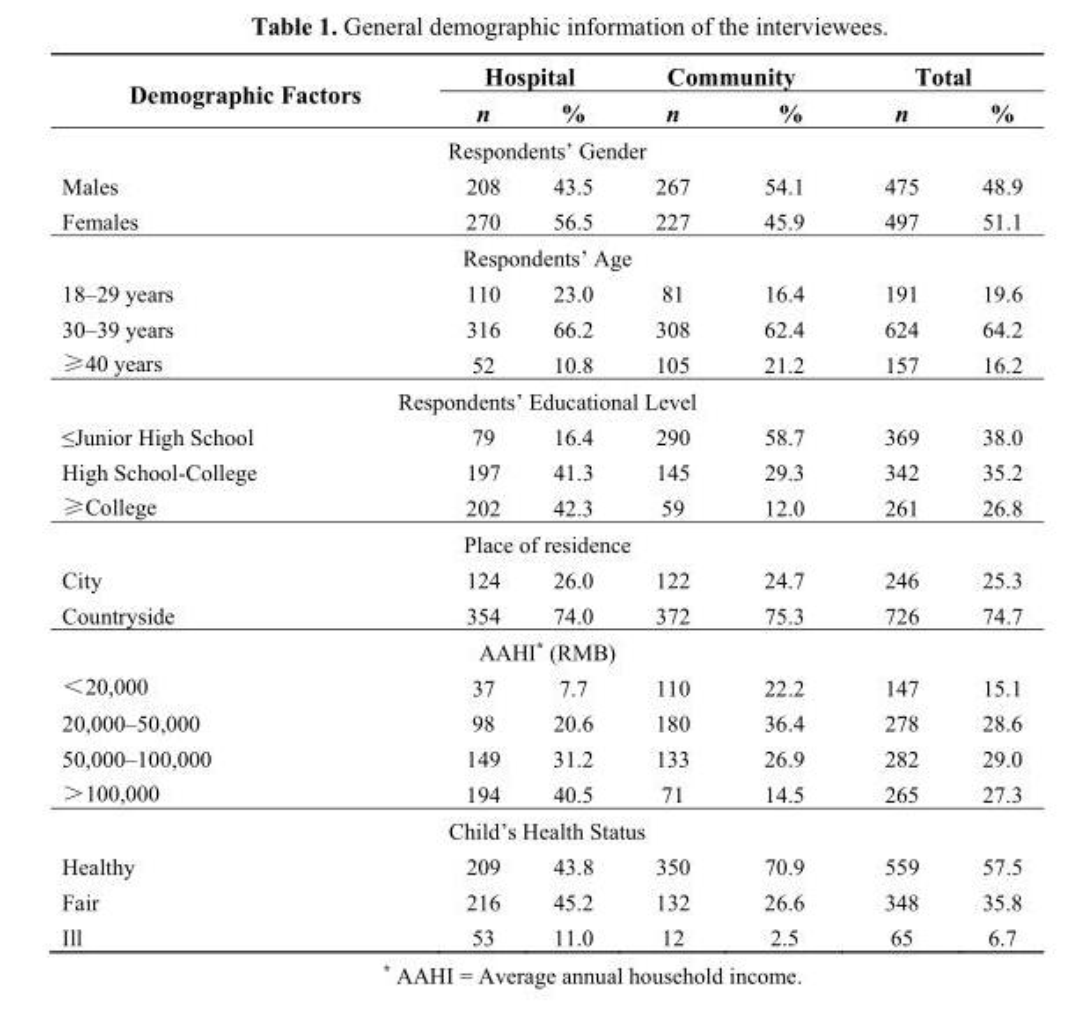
<table><thead><tr><td rowspan="2">Demographic Factors</td><td colspan="2">Hospital</td><td colspan="2">Community</td><td colspan="2">Total</td></tr><tr><td>n</td><td>%</td><td>n</td><td>%</td><td>n</td><td>%</td></tr></thead><tbody><tr><td colspan="7">Respondents’ Gender</td></tr><tr><td>Males</td><td>208</td><td>43.5</td><td>267</td><td>54.1</td><td>475</td><td>48.9</td></tr><tr><td>Females</td><td>270</td><td>56.5</td><td>227</td><td>45.9</td><td>497</td><td>51.1</td></tr><tr><td colspan="7">Respondents’ Age</td></tr><tr><td>18–29 years</td><td>110</td><td>23.0</td><td>81</td><td>16.4</td><td>191</td><td>19.6</td></tr><tr><td>30–39 years</td><td>316</td><td>66.2</td><td>308</td><td>62.4</td><td>624</td><td>64.2</td></tr><tr><td>≥40 years</td><td>52</td><td>10.8</td><td>105</td><td>21.2</td><td>157</td><td>16.2</td></tr><tr><td colspan="7">Respondents’ Educational Level</td></tr><tr><td>≤Junior High School</td><td>79</td><td>16.4</td><td>290</td><td>58.7</td><td>369</td><td>38.0</td></tr><tr><td>High School-College</td><td>197</td><td>41.3</td><td>145</td><td>29.3</td><td>342</td><td>35.2</td></tr><tr><td>≥College</td><td>202</td><td>42.3</td><td>59</td><td>12.0</td><td>261</td><td>26.8</td></tr><tr><td colspan="7">Place of residence</td></tr><tr><td>City</td><td>124</td><td>26.0</td><td>122</td><td>24.7</td><td>246</td><td>25.3</td></tr><tr><td>Countryside</td><td>354</td><td>74.0</td><td>372</td><td>75.3</td><td>726</td><td>74.7</td></tr><tr><td colspan="7">AAHI* (RMB)</td></tr><tr><td>＜20,000</td><td>37</td><td>7.7</td><td>110</td><td>22.2</td><td>147</td><td>15.1</td></tr><tr><td>20,000–50,000</td><td>98</td><td>20.6</td><td>180</td><td>36.4</td><td>278</td><td>28.6</td></tr><tr><td>50,000–100,000</td><td>149</td><td>31.2</td><td>133</td><td>26.9</td><td>282</td><td>29.0</td></tr><tr><td>＞100,000</td><td>194</td><td>40.5</td><td>71</td><td>14.5</td><td>265</td><td>27.3</td></tr><tr><td colspan="7">Child’s Health Status</td></tr><tr><td>Healthy</td><td>209</td><td>43.8</td><td>350</td><td>70.9</td><td>559</td><td>57.5</td></tr><tr><td>Fair</td><td>216</td><td>45.2</td><td>132</td><td>26.6</td><td>348</td><td>35.8</td></tr><tr><td>Ill</td><td>53</td><td>11.0</td><td>12</td><td>2.5</td><td>65</td><td>6.7</td></tr></tbody></table>